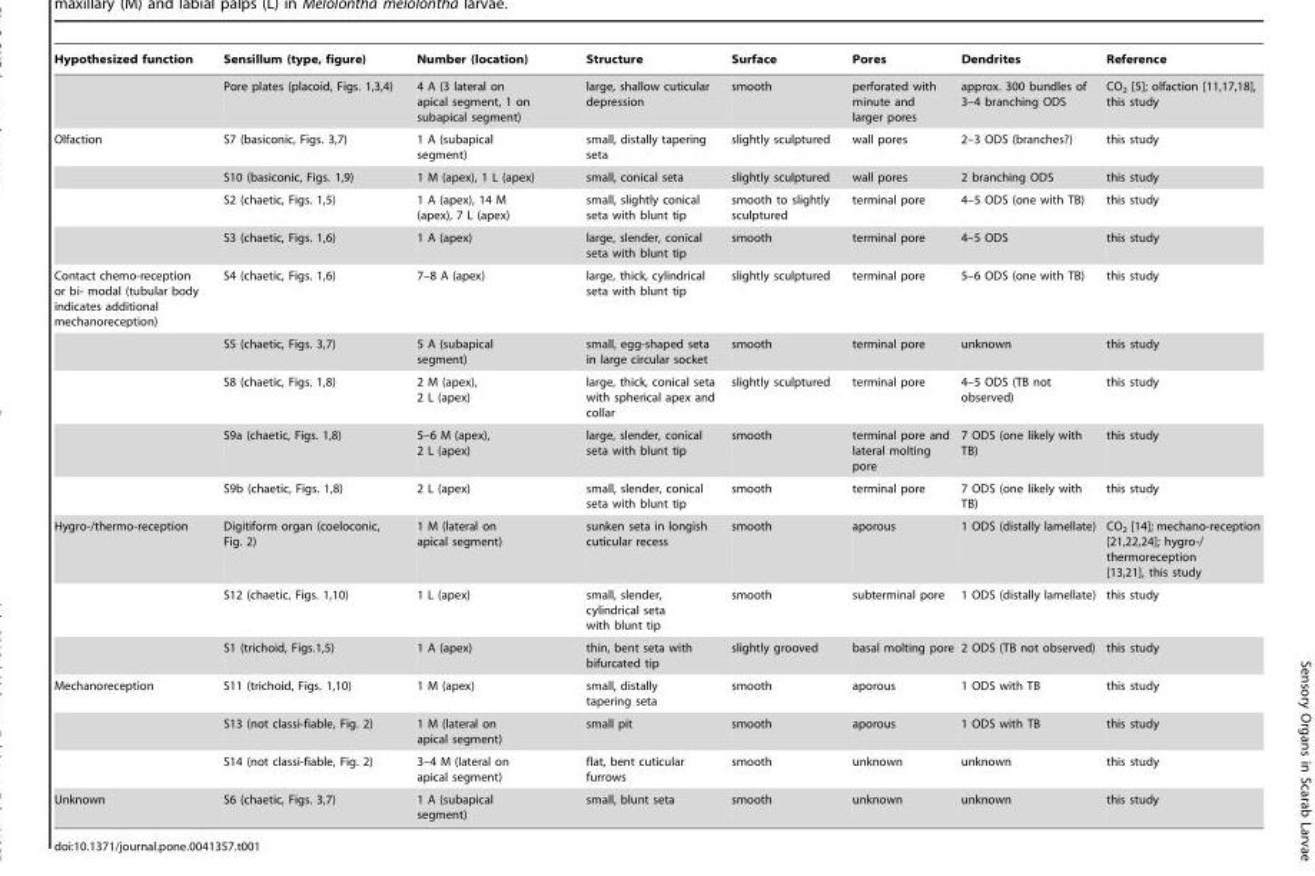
<table><thead><tr><td>Hypothesized function</td><td>Sensillum (type, figure)</td><td>Number (location)</td><td>Structure</td><td>Surface</td><td>Pores</td><td>Dendrites</td><td>Reference</td></tr></thead><tbody><tr><td></td><td>Pore plates (placoid, Figs. 1,3,4)</td><td>4 A (3 lateral on apical segment, 1 on subapical segment)</td><td>large, shallow cuticular depression</td><td>smooth</td><td>perforated with minute and larger pores</td><td>approx. 300 bundles of 3–4 branching ODS</td><td>CO2 [5]; olfaction [11,17,18], this study</td></tr><tr><td rowspan="4">Olfaction</td><td>S7 (basiconic, Figs. 3,7)</td><td>1 A (subapical segment)</td><td>small, distally tapering seta</td><td>slightly sculptured</td><td>wall pores</td><td>2–3 ODS (branches?)</td><td>this study</td></tr><tr><td>S10 (basiconic, Figs. 1,9)</td><td>1 M (apex), 1 L (apex)</td><td>small, conical seta</td><td>slightly sculptured</td><td>wall pores</td><td>2 branching ODS</td><td>this study</td></tr><tr><td>S2 (chaetic, Figs. 1,5)</td><td>1 A (apex), 14 M (apex), 7 L (apex)</td><td>small, slightly conical seta with blunt tip</td><td>smooth to slightly sculptured</td><td>terminal pore</td><td>4–5 ODS (one with TB)</td><td>this study</td></tr><tr><td>S3 (chaetic, Figs. 1,6)</td><td>1 A (apex)</td><td>large, slender, conical seta with blunt tip</td><td>smooth</td><td>terminal pore</td><td>4–5 ODS</td><td>this study</td></tr><tr><td rowspan="5">Contact chemo-reception or bi- modal (tubular body indicates additional mechanoreception)</td><td>S4 (chaetic, Figs. 1,6)</td><td>7–8 A (apex)</td><td>large, thick, cylindrical seta with blunt tip</td><td>slightly sculptured</td><td>terminal pore</td><td>5–6 ODS (one with TB)</td><td>this study</td></tr><tr><td>S5 (chaetic, Figs. 3,7)</td><td>5 A (subapical segment)</td><td>small, egg-shaped seta in large circular socket</td><td>smooth</td><td>terminal pore</td><td>unknown</td><td>this study</td></tr><tr><td>S8 (chaetic, Figs. 1,8)</td><td>2 M (apex), 2 L (apex)</td><td>large, thick, conical seta with spherical apex and collar</td><td>slightly sculptured</td><td>terminal pore</td><td>4–5 ODS (TB not observed)</td><td>this study</td></tr><tr><td>S9a (chaetic, Figs. 1,8)</td><td>5–6 M (apex), 2 L (apex)</td><td>large, slender, conical seta with blunt tip</td><td>smooth</td><td>terminal pore and lateral molting pore</td><td>7 ODS (one likely with TB)</td><td>this study</td></tr><tr><td>S9b (chaetic, Figs. 1,8)</td><td>2 L (apex)</td><td>small, slender, conical seta with blunt tip</td><td>smooth</td><td>terminal pore</td><td>7 ODS (one likely with TB)</td><td>this study</td></tr><tr><td rowspan="3">Hygro-/thermo-reception</td><td>Digitiform organ (coeloconic, Fig. 2)</td><td>1 M (lateral on apical segment)</td><td>sunken seta in longish cuticular recess</td><td>smooth</td><td>aporous</td><td>1 ODS (distally lamellate)</td><td>CO2 [14]; mechano-reception [21,22,24]; hygro-/ thermoreception [13,21], this study</td></tr><tr><td>S12 (chaetic, Figs. 1,10)</td><td>1 L (apex)</td><td>small, slender, cylindrical seta with blunt tip</td><td>smooth</td><td>subterminal pore</td><td>1 ODS (distally lamellate)</td><td>this study</td></tr><tr><td>S1 (trichoid, Figs.1,5)</td><td>1 A (apex)</td><td>thin, bent seta with bifurcated tip</td><td>slightly grooved</td><td>basal molting pore</td><td>2 ODS (TB not observed)</td><td>this study</td></tr><tr><td rowspan="3">Mechanoreception</td><td>S11 (trichoid, Figs. 1,10)</td><td>1 M (apex)</td><td>small, distally tapering seta</td><td>smooth</td><td>aporous</td><td>1 ODS with TB</td><td>this study</td></tr><tr><td>S13 (not classi-fiable, Fig. 2)</td><td>1 M (lateral on apical segment)</td><td>small pit</td><td>smooth</td><td>aporous</td><td>1 ODS with TB</td><td>this study</td></tr><tr><td>S14 (not classi-fiable, Fig. 2)</td><td>3–4 M (lateral on apical segment)</td><td>flat, bent cuticular furrows</td><td>smooth</td><td>unknown</td><td>unknown</td><td>this study</td></tr><tr><td>Unknown</td><td>S6 (chaetic, Figs. 3,7)</td><td>1 A (subapical segment)</td><td>small, blunt seta</td><td>smooth</td><td>unknown</td><td>unknown</td><td>this study</td></tr></tbody></table>